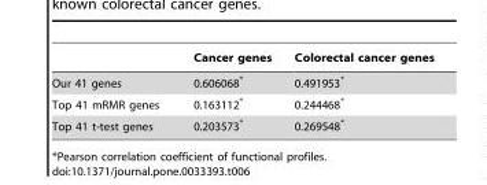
<table><thead><tr><td></td><td>Cancer genes</td><td>Colorectal cancer genes</td></tr></thead><tbody><tr><td>Our 41 genes</td><td>0.606068*</td><td>0.491953*</td></tr><tr><td>Top 41 mRMR genes</td><td>0.163112*</td><td>0.244468*</td></tr><tr><td>Top 41 t-test genes</td><td>0.203573*</td><td>0.269548*</td></tr></tbody></table>